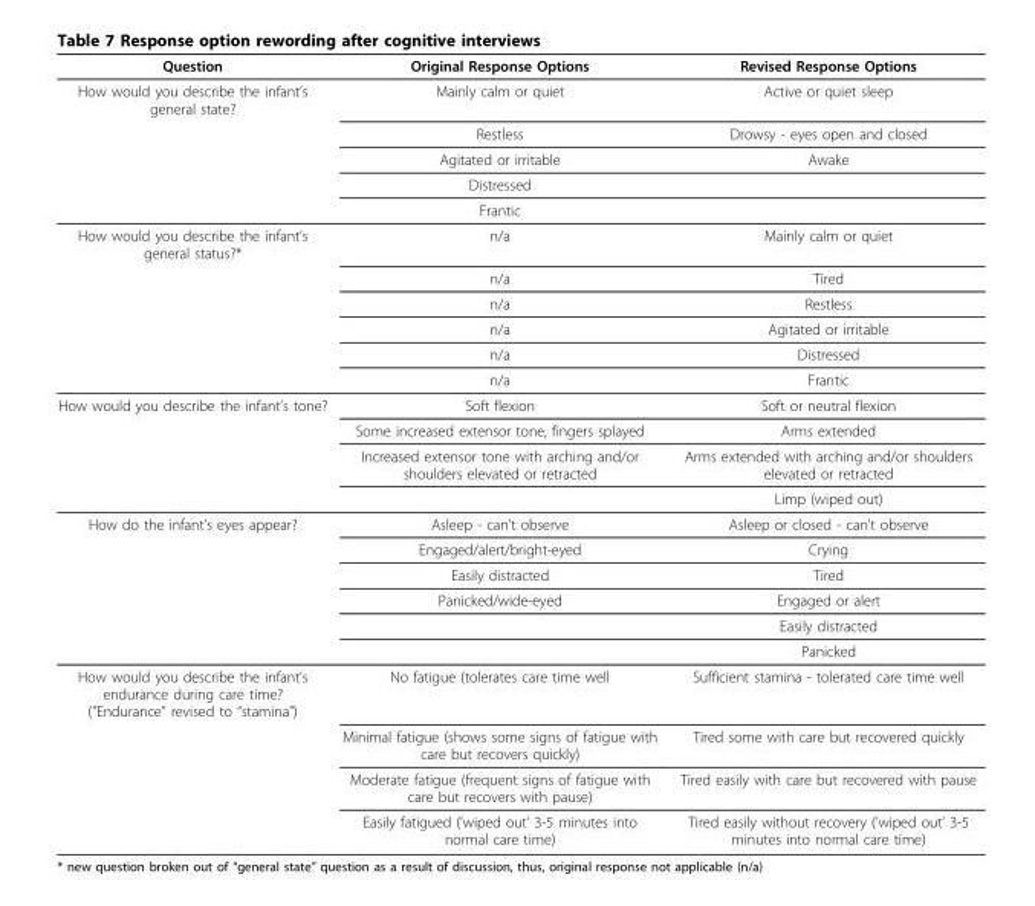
<table><thead><tr><td>Question</td><td>Original Response Options</td><td>Revised Response Options</td></tr></thead><tbody><tr><td rowspan="5">How would you describe the infant’s general state?</td><td>Mainly calm or quiet</td><td>Active or quiet sleep</td></tr><tr><td>Restless</td><td>Drowsy - eyes open and closed</td></tr><tr><td>Agitated or irritable</td><td>Awake</td></tr><tr><td>Distressed</td><td></td></tr><tr><td>Frantic</td><td></td></tr><tr><td rowspan="6">How would you describe the infant’s general status?*</td><td>n/a</td><td>Mainly calm or quiet</td></tr><tr><td>n/a</td><td>Tired</td></tr><tr><td>n/a</td><td>Restless</td></tr><tr><td>n/a</td><td>Agitated or irritable</td></tr><tr><td>n/a</td><td>Distressed</td></tr><tr><td>n/a</td><td>Frantic</td></tr><tr><td rowspan="4">How would you describe the infant’s tone?</td><td>Soft flexion</td><td>Soft or neutral flexion</td></tr><tr><td>Some increased extensor tone, fingers splayed</td><td>Arms extended</td></tr><tr><td>Increased extensor tone with arching and/or shoulders elevated or retracted</td><td>Arms extended with arching and/or shoulders elevated or retracted</td></tr><tr><td></td><td>Limp (wiped out)</td></tr><tr><td rowspan="6">How do the infant’s eyes appear?</td><td>Asleep - can’t observe</td><td>Asleep or closed - can’t observe</td></tr><tr><td>Engaged/alert/bright-eyed</td><td>Crying</td></tr><tr><td>Easily distracted</td><td>Tired</td></tr><tr><td>Panicked/wide-eyed</td><td>Engaged or alert</td></tr><tr><td></td><td>Easily distracted</td></tr><tr><td></td><td>Panicked</td></tr><tr><td rowspan="4">How would you describe the infant’s endurance during care time? (&quot;Endurance” revised to “stamina”)</td><td>No fatigue (tolerates care time well</td><td>Sufficient stamina - tolerated care time well</td></tr><tr><td>Minimal fatigue (shows some signs of fatigue with care but recovers quickly)</td><td>Tired some with care but recovered quickly</td></tr><tr><td>Moderate fatigue (frequent signs of fatigue with care but recovers with pause)</td><td>Tired easily with care but recovered with pause</td></tr><tr><td>Easily fatigued (’wiped out’ 3-5 minutes into normal care time)</td><td>Tired easily without recovery (’wiped out’ 3-5 minutes into normal care time)</td></tr></tbody></table>